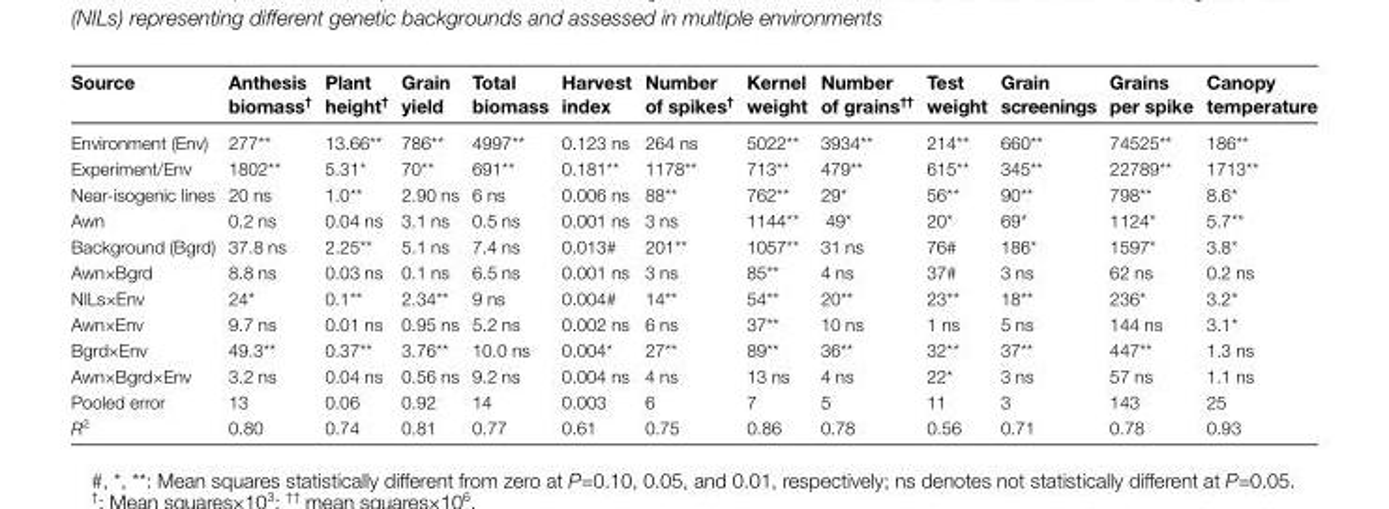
<table><thead><tr><td>Source</td><td>Anthesis biomass<sup>†</sup></td><td>Plant height<sup>†</sup></td><td>Grain yield</td><td>Total biomass</td><td>Harvest index</td><td>Number of spikes<sup>†</sup></td><td>Kernel weight</td><td>Number of grains<sup>††</sup></td><td>Test weight</td><td>Grain screenings</td><td>Grains per spike</td><td>Canopy temperature</td></tr></thead><tbody><tr><td>Environment (Env)</td><td>277**</td><td>13.66**</td><td>786**</td><td>4997**</td><td>0.123 ns</td><td>264 ns</td><td>5022**</td><td>3934**</td><td>214**</td><td>660**</td><td>74525**</td><td>186**</td></tr><tr><td>Experiment/Env</td><td>1802**</td><td>5.31*</td><td>70**</td><td>691**</td><td>0.181**</td><td>1178**</td><td>713**</td><td>479**</td><td>615**</td><td>345**</td><td>22789**</td><td>1713**</td></tr><tr><td>Near-isogenic lines</td><td>20 ns</td><td>1.0**</td><td>2.90 ns</td><td>6 ns</td><td>0.006 ns</td><td>88**</td><td>762**</td><td>29*</td><td>56**</td><td>90**</td><td>798**</td><td>8.6*</td></tr><tr><td>Awn</td><td>0.2 ns</td><td>0.04 ns</td><td>3.1 ns</td><td>0.5 ns</td><td>0.001 ns</td><td>3 ns</td><td>1144**</td><td>49*</td><td>20*</td><td>69*</td><td>1124*</td><td>5.7**</td></tr><tr><td>Background (Bgrd)</td><td>37.8 ns</td><td>2.25**</td><td>5.1 ns</td><td>7.4 ns</td><td>0.013#</td><td>201**</td><td>1057**</td><td>31 ns</td><td>76#</td><td>186*</td><td>1597*</td><td>3.8*</td></tr><tr><td>Awn×Bgrd</td><td>8.8 ns</td><td>0.03 ns</td><td>0.1 ns</td><td>6.5 ns</td><td>0.001 ns</td><td>3 ns</td><td>85**</td><td>4 ns</td><td>37#</td><td>3 ns</td><td>62 ns</td><td>0.2 ns</td></tr><tr><td>NILs×Env</td><td>24*</td><td>0.1**</td><td>2.34**</td><td>9 ns</td><td>0.004#</td><td>14**</td><td>54**</td><td>20**</td><td>23**</td><td>18**</td><td>236*</td><td>3.2*</td></tr><tr><td>Awn×Env</td><td>9.7 ns</td><td>0.01 ns</td><td>0.95 ns</td><td>5.2 ns</td><td>0.002 ns</td><td>6 ns</td><td>37**</td><td>10 ns</td><td>1 ns</td><td>5 ns</td><td>144 ns</td><td>3.1*</td></tr><tr><td>Bgrd×Env</td><td>49.3**</td><td>0.37**</td><td>3.76**</td><td>10.0 ns</td><td>0.004*</td><td>27**</td><td>89**</td><td>36**</td><td>32**</td><td>37**</td><td>447**</td><td>1.3 ns</td></tr><tr><td>Awn×Bgrd×Env</td><td>3.2 ns</td><td>0.04 ns</td><td>0.56 ns</td><td>9.2 ns</td><td>0.004 ns</td><td>4 ns</td><td>13 ns</td><td>4 ns</td><td>22*</td><td>3 ns</td><td>57 ns</td><td>1.1 ns</td></tr><tr><td>Pooled error</td><td>13</td><td>0.06</td><td>0.92</td><td>14</td><td>0.003</td><td>6</td><td>7</td><td>5</td><td>11</td><td>3</td><td>143</td><td>25</td></tr><tr><td>R<sup>2</sup></td><td>0.80</td><td>0.74</td><td>0.81</td><td>0.77</td><td>0.61</td><td>0.75</td><td>0.86</td><td>0.78</td><td>0.56</td><td>0.71</td><td>0.78</td><td>0.93</td></tr></tbody></table>